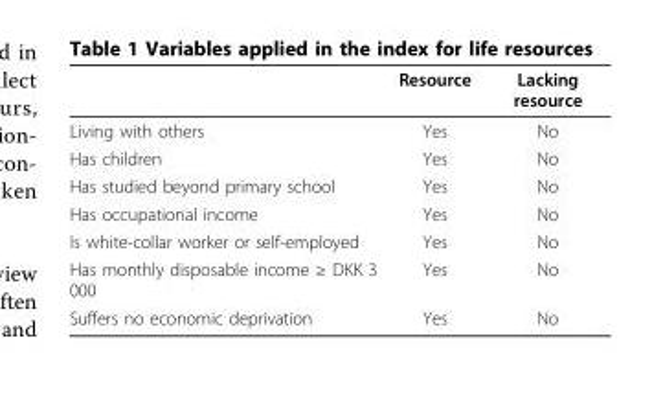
<table><thead><tr><td></td><td>Resource</td><td>Lacking resource</td></tr></thead><tbody><tr><td>Living with others</td><td>Yes</td><td>No</td></tr><tr><td>Has children</td><td>Yes</td><td>No</td></tr><tr><td>Has studied beyond primary school</td><td>Yes</td><td>No</td></tr><tr><td>Has occupational income</td><td>Yes</td><td>No</td></tr><tr><td>Is white-collar worker or self-employed</td><td>Yes</td><td>No</td></tr><tr><td>Has monthly disposable income ≥ DKK 3 000</td><td>Yes</td><td>No</td></tr><tr><td>Suffers no economic deprivation</td><td>Yes</td><td>No</td></tr></tbody></table>